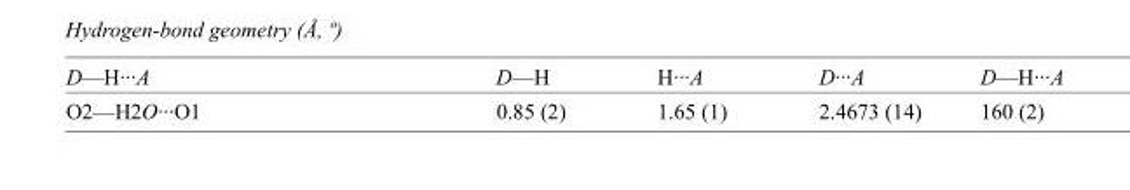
<table><tbody><tr><td>D—H···A</td><td>D—H</td><td>H···A</td><td>D···A</td><td>D—H···A</td></tr><tr><td>O2—H2O···O1</td><td>0.85 (2)</td><td>1.65 (1)</td><td>2.4673 (14)</td><td>160 (2)</td></tr></tbody></table>